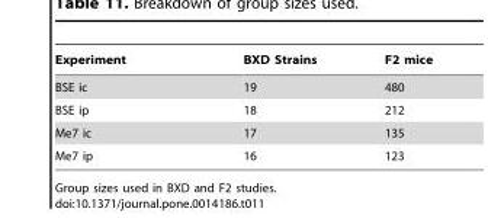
<table><thead><tr><td>Experiment</td><td>BXD Strains</td><td>F2 mice</td></tr></thead><tbody><tr><td>BSE ic</td><td>19</td><td>480</td></tr><tr><td>BSE ip</td><td>18</td><td>212</td></tr><tr><td>Me7 ic</td><td>17</td><td>135</td></tr><tr><td>Me7 ip</td><td>16</td><td>123</td></tr></tbody></table>